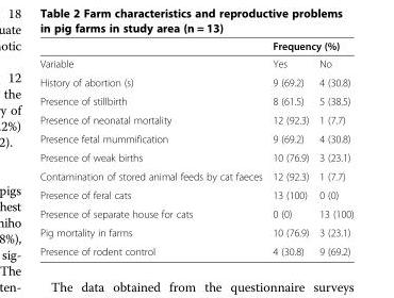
<table><thead><tr><td rowspan="2">Variable</td><td colspan="2">Frequency (%)</td></tr><tr><td>Yes</td><td>No</td></tr></thead><tbody><tr><td>History of abortion (s)</td><td>9 (69.2)</td><td>4 (30.8)</td></tr><tr><td>Presence of stillbirth</td><td>8 (61.5)</td><td>5 (38.5)</td></tr><tr><td>Presence of neonatal mortality</td><td>12 (92.3)</td><td>1 (7.7)</td></tr><tr><td>Presence fetal mummification</td><td>9 (69.2)</td><td>4 (30.8)</td></tr><tr><td>Presence of weak births</td><td>10 (76.9)</td><td>3 (23.1)</td></tr><tr><td>Contamination of stored animal feeds by cat faeces</td><td>12 (92.3)</td><td>1 (7.7)</td></tr><tr><td>Presence of feral cats</td><td>13 (100)</td><td>0 (0)</td></tr><tr><td>Presence of separate house for cats</td><td>0 (0)</td><td>13 (100)</td></tr><tr><td>Pig mortality in farms</td><td>10 (76.9)</td><td>3 (23.1)</td></tr><tr><td>Presence of rodent control</td><td>4 (30.8)</td><td>9 (69.2)</td></tr></tbody></table>